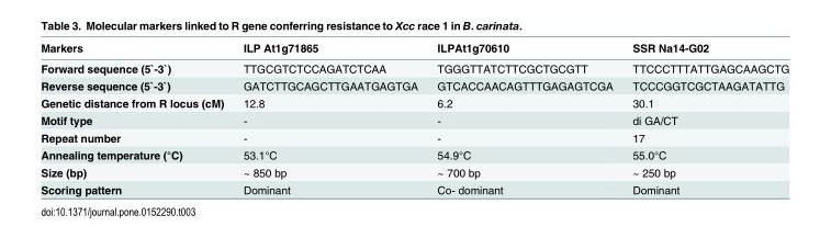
<table><thead><tr><td>Markers</td><td>ILP At1g71865</td><td>ILPAt1g70610</td><td>SSR Na14-G02</td></tr></thead><tbody><tr><td>Forward sequence (5`-3`)</td><td>TTGCGTCTCCAGATCTCAA</td><td>TGGGTTATCTTCGCTGCGTT</td><td>TTCCCTTTATTGAGCAAGCTG</td></tr><tr><td>Reverse sequence (5`-3`)</td><td>GATCTTGCAGCTTGAATGAGTGA</td><td>GTCACCAACAGTTTGAGAGTCGA</td><td>TCCCGGTCGCTAAGATATTG</td></tr><tr><td>Genetic distance from R locus (cM)</td><td>12.8</td><td>6.2</td><td>30.1</td></tr><tr><td>Motif type</td><td>-</td><td>-</td><td>di GA/CT</td></tr><tr><td>Repeat number</td><td>-</td><td>-</td><td>17</td></tr><tr><td>Annealing temperature (°C)</td><td>53.1°C</td><td>54.9°C</td><td>55.0°C</td></tr><tr><td>Size (bp)</td><td>~ 850 bp</td><td>~ 700 bp</td><td>~ 250 bp</td></tr><tr><td>Scoring pattern</td><td>Dominant</td><td>Co- dominant</td><td>Dominant</td></tr></tbody></table>